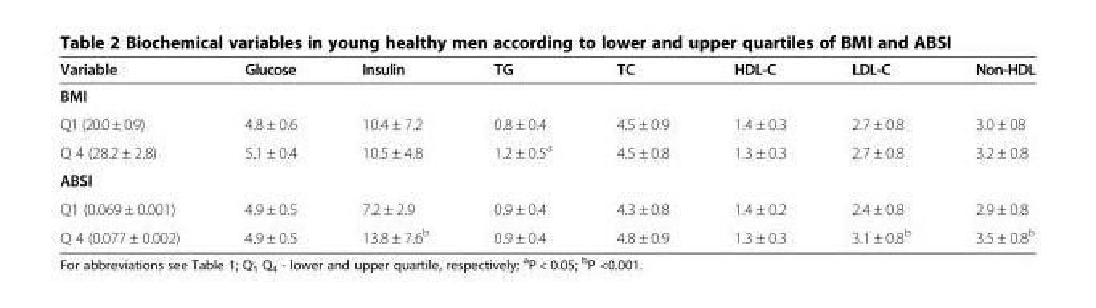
<table><thead><tr><td>Variable</td><td>Glucose</td><td>Insulin</td><td>TG</td><td>TC</td><td>HDL-C</td><td>LDL-C</td><td>Non-HDL</td></tr></thead><tbody><tr><td colspan="8">BMI</td></tr><tr><td>Q1 (20.0 ± 0.9)</td><td>4.8 ± 0.6</td><td>10.4 ± 7.2</td><td>0.8 ± 0.4</td><td>4.5 ± 0.9</td><td>1.4 ± 0.3</td><td>2.7 ± 0.8</td><td>3.0 ± 08</td></tr><tr><td>Q 4 (28.2 ± 2.8)</td><td>5.1 ± 0.4</td><td>10.5 ± 4.8</td><td>1.2 ± 0.5<sup>a</sup></td><td>4.5 ± 0.8</td><td>1.3 ± 0.3</td><td>2.7 ± 0.8</td><td>3.2 ± 0.8</td></tr><tr><td colspan="8">ABSI</td></tr><tr><td>Q1 (0.069 ± 0.001)</td><td>4.9 ± 0.5</td><td>7.2 ± 2.9</td><td>0.9 ± 0.4</td><td>4.3 ± 0.8</td><td>1.4 ± 0.2</td><td>2.4 ± 0.8</td><td>2.9 ± 0.8</td></tr><tr><td>Q 4 (0.077 ± 0.002)</td><td>4.9 ± 0.5</td><td>13.8 ± 7.6<sup>b</sup></td><td>0.9 ± 0.4</td><td>4.8 ± 0.9</td><td>1.3 ± 0.3</td><td>3.1 ± 0.8<sup>b</sup></td><td>3.5 ± 0.8<sup>b</sup></td></tr></tbody></table>